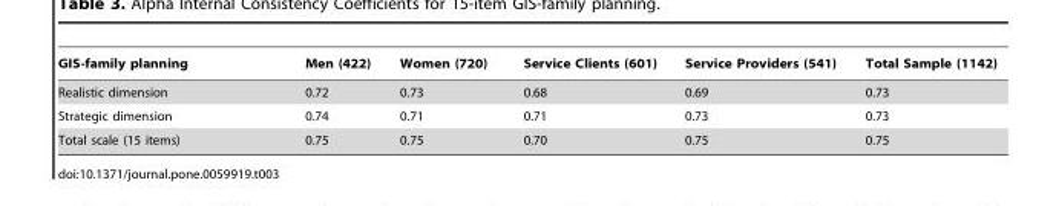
<table><thead><tr><td>GIS-family planning</td><td>Men (422)</td><td>Women (720)</td><td>Service Clients (601)</td><td>Service Providers (541)</td><td>Total Sample (1142)</td></tr></thead><tbody><tr><td>Realistic dimension</td><td>0.72</td><td>0.73</td><td>0.68</td><td>0.69</td><td>0.73</td></tr><tr><td>Strategic dimension</td><td>0.74</td><td>0.71</td><td>0.71</td><td>0.73</td><td>0.73</td></tr><tr><td>Total scale (15 items)</td><td>0.75</td><td>0.75</td><td>0.70</td><td>0.75</td><td>0.75</td></tr></tbody></table>